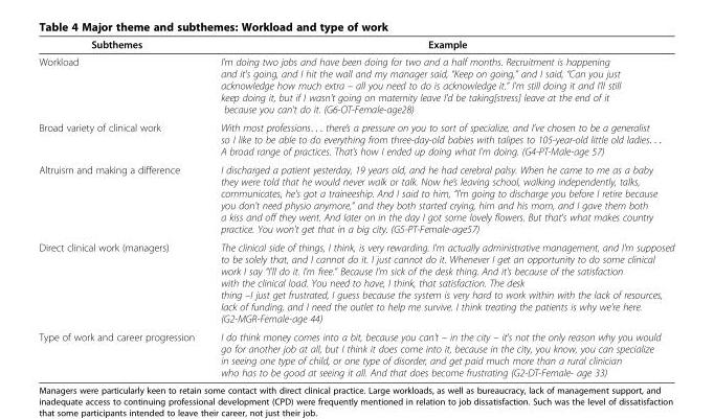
<table><thead><tr><td>Subthemes</td><td>Example</td></tr></thead><tbody><tr><td>Workload</td><td>I&#x27;m doing two jobs and have been doing for two and a half months. Recruitment is happening and it&#x27;s going, and I hit the wall and my manager said, “Keep on going,” and I said, “Can you just acknowledge how much extra – all you need to do is acknowledge it.” I&#x27;m still doing it and I&#x27;ll still keep doing it, but if I wasn&#x27;t going on maternity leave I&#x27;d be taking[stress] leave at the end of it because you can&#x27;t do it. (G6-OT-Female-age28)</td></tr><tr><td>Broad variety of clinical work</td><td>With most professions. . . there’s a pressure on you to sort of specialize, and I’ve chosen to be a generalist so I like to be able to do everything from three-day-old babies with talipes to 105-year-old little old ladies. . . A broad range of practices. That’s how I ended up doing what I’m doing. (G4-PT-Male-age 57)</td></tr><tr><td>Altruism and making a difference</td><td>I discharged a patient yesterday, 19 years old, and he had cerebral palsy. When he came to me as a baby they were told that he would never walk or talk. Now he’s leaving school, walking independently, talks, communicates, he&#x27;s got a traineeship. And I said to him, “I&#x27;m going to discharge you before I retire because you don&#x27;t need physio anymore,” and they both started crying, him and his mom, and I gave them both a kiss and off they went. And later on in the day I got some lovely flowers. But that&#x27;s what makes country practice. You won&#x27;t get that in a big city. (G5-PT-Female-age57)</td></tr><tr><td>Direct clinical work (managers)</td><td>The clinical side of things, I think, is very rewarding. I&#x27;m actually administrative management, and I&#x27;m supposed to be solely that, and I cannot do it. I just cannot do it. Whenever I get an opportunity to do some clinical work I say “I&#x27;ll do it. I&#x27;m free.” Because I&#x27;m sick of the desk thing. And it&#x27;s because of the satisfaction with the clinical load. You need to have, I think, that satisfaction. The desk thing –I just get frustrated, I guess because the system is very hard to work within with the lack of resources, lack of funding, and I need the outlet to help me survive. I think treating the patients is why we&#x27;re here. (G2-MGR-Female-age 44)</td></tr><tr><td>Type of work and career progression</td><td>I do think money comes into a bit, because you can&#x27;t – in the city – it&#x27;s not the only reason why you would go for another job at all, but I think it does come into it, because in the city, you know, you can specialize in seeing one type of child, or one type of disorder, and get paid much more than a rural clinician who has to be good at seeing it all. And that does become frustrating (G2-DT-Female- age 33)</td></tr></tbody></table>